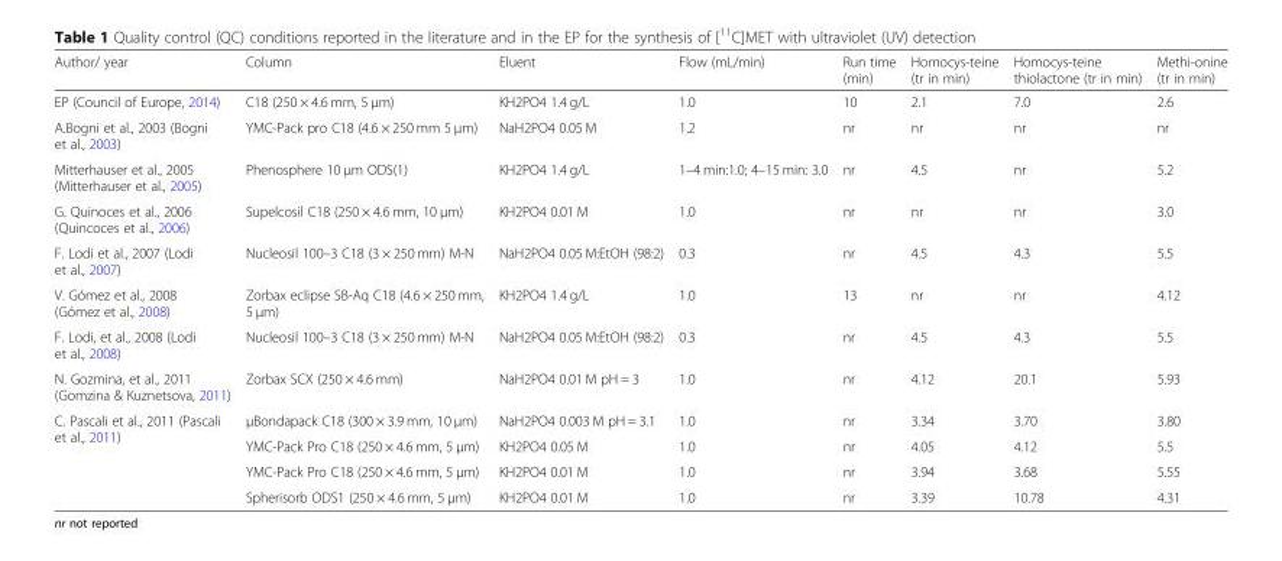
<table><thead><tr><td>Author/ year</td><td>Column</td><td>Eluent</td><td>Flow (mL/min)</td><td>Run time (min)</td><td>Homocys-teine (tr in min)</td><td>Homocys-teine thiolactone (tr in min)</td><td>Methi-onine (tr in min)</td></tr></thead><tbody><tr><td>EP (Council of Europe, 2014)</td><td>C18 (250 × 4.6 mm, 5 μm)</td><td>KH2PO4 1.4 g/L</td><td>1.0</td><td>10</td><td>2.1</td><td>7.0</td><td>2.6</td></tr><tr><td>A.Bogni et al., 2003 (Bogni et al., 2003)</td><td>YMC-Pack pro C18 (4.6 × 250 mm 5 μm)</td><td>NaH2PO4 0.05 M</td><td>1.2</td><td>nr</td><td>nr</td><td>nr</td><td>nr</td></tr><tr><td>Mitterhauser et al., 2005 (Mitterhauser et al., 2005)</td><td>Phenosphere 10 μm ODS(1)</td><td>KH2PO4 1.4 g/L</td><td>1–4 min:1.0; 4–15 min: 3.0</td><td>nr</td><td>4.5</td><td>nr</td><td>5.2</td></tr><tr><td>G. Quinoces et al., 2006 (Quincoces et al., 2006)</td><td>Supelcosil C18 (250 × 4.6 mm, 10 μm)</td><td>KH2PO4 0.01 M</td><td>1.0</td><td>nr</td><td>nr</td><td>nr</td><td>3.0</td></tr><tr><td>F. Lodi et al., 2007 (Lodi et al., 2007)</td><td>Nucleosil 100–3 C18 (3 × 250 mm) M-N</td><td>NaH2PO4 0.05 M:EtOH (98:2)</td><td>0.3</td><td>nr</td><td>4.5</td><td>4.3</td><td>5.5</td></tr><tr><td>V. Gómez et al., 2008 (Gómez et al., 2008)</td><td>Zorbax eclipse SB-Aq C18 (4.6 × 250 mm, 5 μm)</td><td>KH2PO4 1.4 g/L</td><td>1.0</td><td>13</td><td>nr</td><td>nr</td><td>4.12</td></tr><tr><td>F. Lodi, et al., 2008 (Lodi et al., 2008)</td><td>Nucleosil 100–3 C18 (3 × 250 mm) M-N</td><td>NaH2PO4 0.05 M:EtOH (98:2)</td><td>0.3</td><td>nr</td><td>4.5</td><td>4.3</td><td>5.5</td></tr><tr><td>N. Gozmina, et al., 2011 (Gomzina &amp; Kuznetsova, 2011)</td><td>Zorbax SCX (250 × 4.6 mm)</td><td>NaH2PO4 0.01 M pH = 3</td><td>1.0</td><td>nr</td><td>4.12</td><td>20.1</td><td>5.93</td></tr><tr><td rowspan="4">C. Pascali et al., 2011 (Pascali et al., 2011)</td><td>μBondapack C18 (300 × 3.9 mm, 10 μm)</td><td>NaH2PO4 0.003 M pH = 3.1</td><td>1.0</td><td>nr</td><td>3.34</td><td>3.70</td><td>3.80</td></tr><tr><td>YMC-Pack Pro C18 (250 × 4.6 mm, 5 μm)</td><td>KH2PO4 0.05 M</td><td>1.0</td><td>nr</td><td>4.05</td><td>4.12</td><td>5.5</td></tr><tr><td>YMC-Pack Pro C18 (250 × 4.6 mm, 5 μm)</td><td>KH2PO4 0.01 M</td><td>1.0</td><td>nr</td><td>3.94</td><td>3.68</td><td>5.55</td></tr><tr><td>Spherisorb ODS1 (250 × 4.6 mm, 5 μm)</td><td>KH2PO4 0.01 M</td><td>1.0</td><td>nr</td><td>3.39</td><td>10.78</td><td>4.31</td></tr></tbody></table>